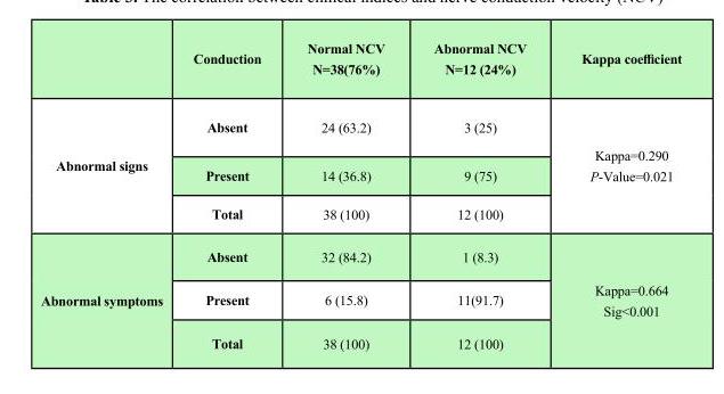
<table><thead><tr><td></td><td>Conduction</td><td>Normal NCV N=38(76%)</td><td>Abnormal NCV N=12 (24%)</td><td>Kappa coefficient</td></tr></thead><tbody><tr><td rowspan="3">Abnormal signs</td><td>Absent</td><td>24 (63.2)</td><td>3 (25)</td><td rowspan="3">Kappa=0.290 P-Value=0.021</td></tr><tr><td>Present</td><td>14 (36.8)</td><td>9 (75)</td></tr><tr><td>Total</td><td>38 (100)</td><td>12 (100)</td></tr><tr><td rowspan="3">Abnormal symptoms</td><td>Absent</td><td>32 (84.2)</td><td>1 (8.3)</td><td rowspan="3">Kappa=0.664 Sig&lt;0.001</td></tr><tr><td>Present</td><td>6 (15.8)</td><td>11(91.7)</td></tr><tr><td>Total</td><td>38 (100)</td><td>12 (100)</td></tr></tbody></table>